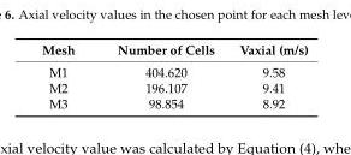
<table><thead><tr><td>Mesh</td><td>Number of Cells</td><td>Vaxial (m/s)</td></tr></thead><tbody><tr><td>M1</td><td>404.620</td><td>9.58</td></tr><tr><td>M2</td><td>196.107</td><td>9.41</td></tr><tr><td>M3</td><td>98.854</td><td>8.92</td></tr></tbody></table>